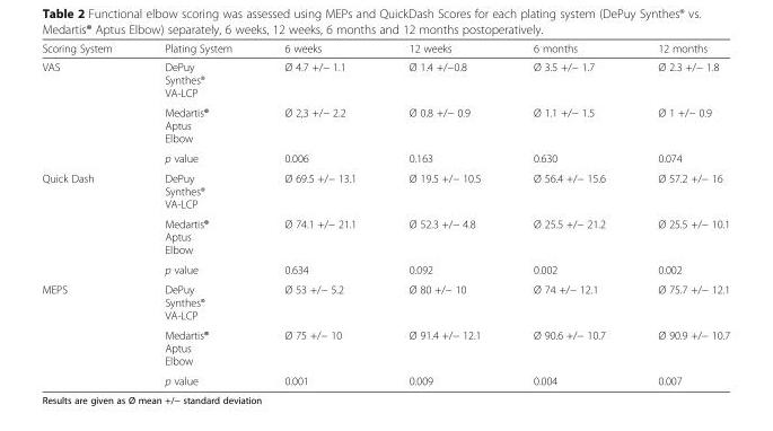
<table><thead><tr><td>Scoring System</td><td>Plating System</td><td>6 weeks</td><td>12 weeks</td><td>6 months</td><td>12 months</td></tr></thead><tbody><tr><td rowspan="3">VAS</td><td>DePuy Synthes® VA-LCP</td><td>Ø 4.7 +/− 1.1</td><td>Ø 1.4 +/−0.8</td><td>Ø 3.5 +/− 1.7</td><td>Ø 2.3 +/− 1.8</td></tr><tr><td>Medartis® Aptus Elbow</td><td>Ø 2,3 +/− 2.2</td><td>Ø 0.8 +/− 0.9</td><td>Ø 1.1 +/− 1.5</td><td>Ø 1 +/− 0.9</td></tr><tr><td>p value</td><td>0.006</td><td>0.163</td><td>0.630</td><td>0.074</td></tr><tr><td rowspan="3">Quick Dash</td><td>DePuy Synthes® VA-LCP</td><td>Ø 69.5 +/− 13.1</td><td>Ø 19.5 +/− 10.5</td><td>Ø 56.4 +/− 15.6</td><td>Ø 57.2 +/− 16</td></tr><tr><td>Medartis® Aptus Elbow</td><td>Ø 74.1 +/− 21.1</td><td>Ø 52.3 +/− 4.8</td><td>Ø 25.5 +/− 21.2</td><td>Ø 25.5 +/− 10.1</td></tr><tr><td>p value</td><td>0.634</td><td>0.092</td><td>0.002</td><td>0.002</td></tr><tr><td rowspan="3">MEPS</td><td>DePuy Synthes® VA-LCP</td><td>Ø 53 +/− 5.2</td><td>Ø 80 +/− 10</td><td>Ø 74 +/− 12.1</td><td>Ø 75.7 +/− 12.1</td></tr><tr><td>Medartis® Aptus Elbow</td><td>Ø 75 +/− 10</td><td>Ø 91.4 +/− 12.1</td><td>Ø 90.6 +/− 10.7</td><td>Ø 90.9 +/− 10.7</td></tr><tr><td>p value</td><td>0.001</td><td>0.009</td><td>0.004</td><td>0.007</td></tr></tbody></table>